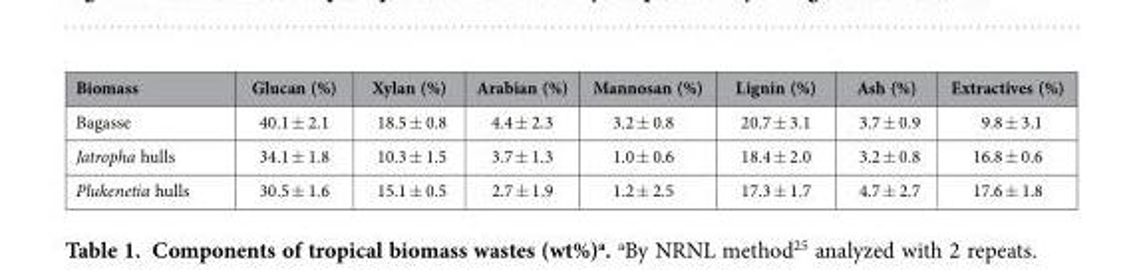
<table><thead><tr><td>Biomass</td><td>Glucan (%)</td><td>Xylan (%)</td><td>Arabian (%)</td><td>Mannosan (%)</td><td>Lignin (%)</td><td>Ash (%)</td><td>Extractives (%)</td></tr></thead><tbody><tr><td>Bagasse</td><td>40.1 ± 2.1</td><td>18.5 ± 0.8</td><td>4.4 ± 2.3</td><td>3.2 ± 0.8</td><td>20.7 ± 3.1</td><td>3.7 ± 0.9</td><td>9.8 ± 3.1</td></tr><tr><td>Jatropha hulls</td><td>34.1 ± 1.8</td><td>10.3 ± 1.5</td><td>3.7 ± 1.3</td><td>1.0 ± 0.6</td><td>18.4 ± 2.0</td><td>3.2 ± 0.8</td><td>16.8 ± 0.6</td></tr><tr><td>Plukenetia hulls</td><td>30.5 ± 1.6</td><td>15.1 ± 0.5</td><td>2.7 ± 1.9</td><td>1.2 ± 2.5</td><td>17.3 ± 1.7</td><td>4.7 ± 2.7</td><td>17.6 ± 1.8</td></tr></tbody></table>